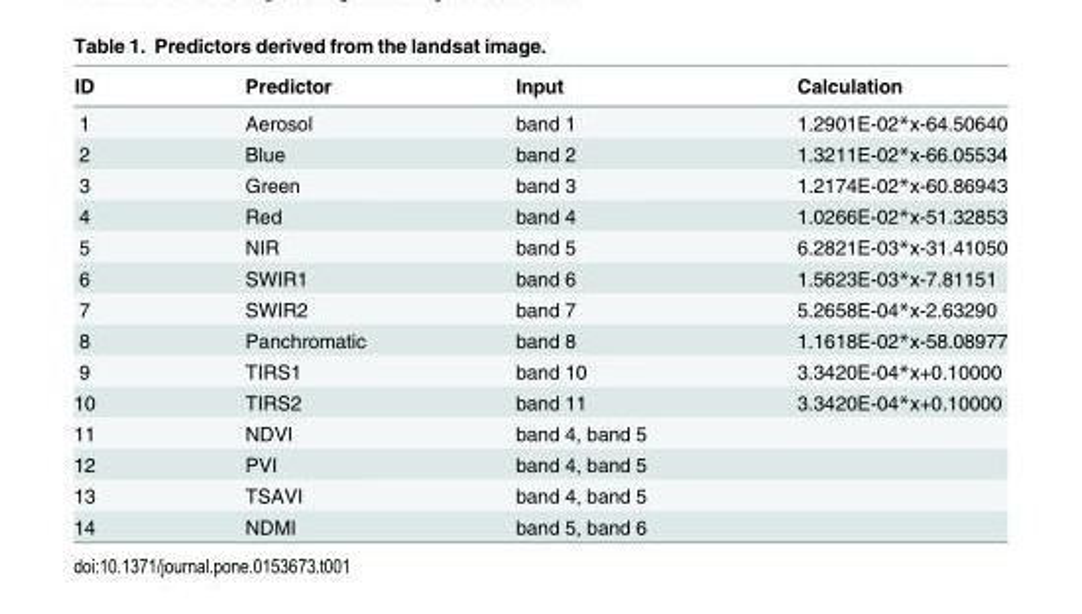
<table><thead><tr><td>ID</td><td>Predictor</td><td>Input</td><td>Calculation</td></tr></thead><tbody><tr><td>1</td><td>Aerosol</td><td>band 1</td><td>1.2901E-02*x-64.50640</td></tr><tr><td>2</td><td>Blue</td><td>band 2</td><td>1.3211E-02*x-66.05534</td></tr><tr><td>3</td><td>Green</td><td>band 3</td><td>1.2174E-02*x-60.86943</td></tr><tr><td>4</td><td>Red</td><td>band 4</td><td>1.0266E-02*x-51.32853</td></tr><tr><td>5</td><td>NIR</td><td>band 5</td><td>6.2821E-03*x-31.41050</td></tr><tr><td>6</td><td>SWIR1</td><td>band 6</td><td>1.5623E-03*x-7.81151</td></tr><tr><td>7</td><td>SWIR2</td><td>band 7</td><td>5.2658E-04*x-2.63290</td></tr><tr><td>8</td><td>Panchromatic</td><td>band 8</td><td>1.1618E-02*x-58.08977</td></tr><tr><td>9</td><td>TIRS1</td><td>band 10</td><td>3.3420E-04*x+0.10000</td></tr><tr><td>10</td><td>TIRS2</td><td>band 11</td><td>3.3420E-04*x+0.10000</td></tr><tr><td>11</td><td>NDVI</td><td>band 4, band 5</td><td></td></tr><tr><td>12</td><td>PVI</td><td>band 4, band 5</td><td></td></tr><tr><td>13</td><td>TSAVI</td><td>band 4, band 5</td><td></td></tr><tr><td>14</td><td>NDMI</td><td>band 5, band 6</td><td></td></tr></tbody></table>